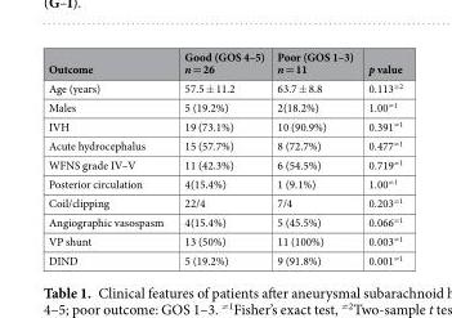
<table><thead><tr><td>Outcome</td><td>Good (GOS 4–5) n = 26</td><td>Poor (GOS 1–3) n = 11</td><td>p value</td></tr></thead><tbody><tr><td>Age (years)</td><td>57.5 ± 11.2</td><td>63.7 ± 8.8</td><td>0.113<sup>≠2</sup></td></tr><tr><td>Males</td><td>5 (19.2%)</td><td>2(18.2%)</td><td>1.00<sup>≠1</sup></td></tr><tr><td>IVH</td><td>19 (73.1%)</td><td>10 (90.9%)</td><td>0.391<sup>≠1</sup></td></tr><tr><td>Acute hydrocephalus</td><td>15 (57.7%)</td><td>8 (72.7%)</td><td>0.477<sup>≠1</sup></td></tr><tr><td>WFNS grade IV–V</td><td>11 (42.3%)</td><td>6 (54.5%)</td><td>0.719<sup>≠1</sup></td></tr><tr><td>Posterior circulation</td><td>4(15.4%)</td><td>1 (9.1%)</td><td>1.00<sup>≠1</sup></td></tr><tr><td>Coil/clipping</td><td>22/4</td><td>7/4</td><td>0.203<sup>≠1</sup></td></tr><tr><td>Angiographic vasospasm</td><td>4(15.4%)</td><td>5 (45.5%)</td><td>0.066<sup>≠1</sup></td></tr><tr><td>VP shunt</td><td>13 (50%)</td><td>11 (100%)</td><td>0.003<sup>≠1</sup></td></tr><tr><td>DIND</td><td>5 (19.2%)</td><td>9 (91.8%)</td><td>0.001<sup>≠1</sup></td></tr></tbody></table>